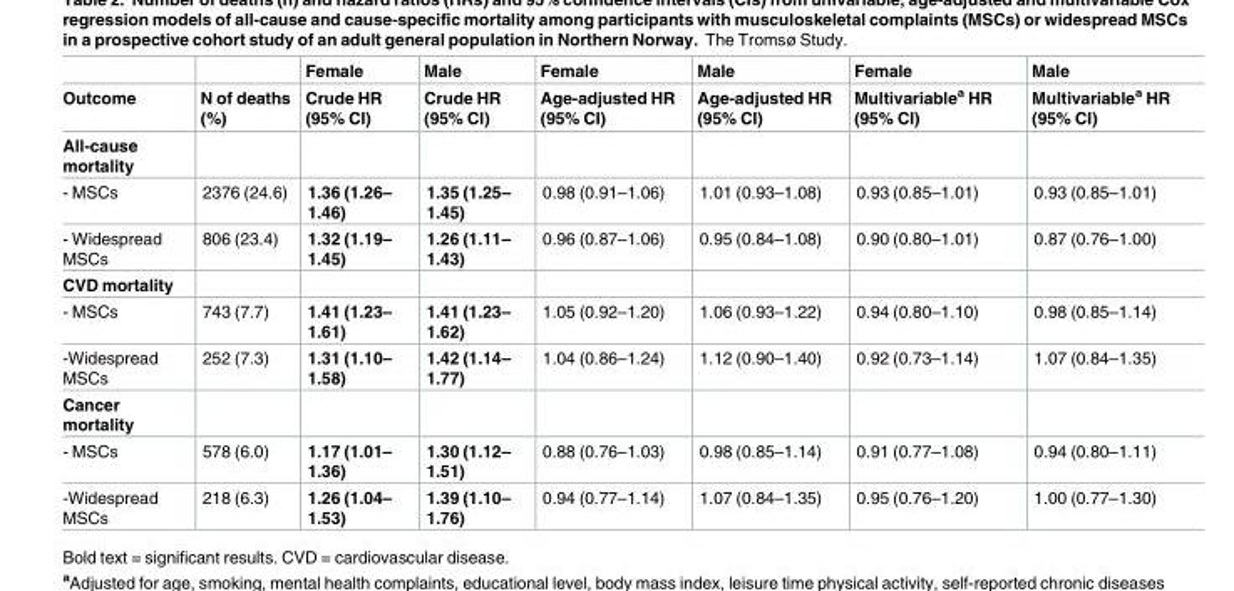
<table><thead><tr><td rowspan="2">Outcome</td><td rowspan="2">N of deaths (%)</td><td rowspan="2">Female Crude HR (95% CI)</td><td rowspan="2">Male Crude HR (95% CI)</td><td rowspan="2">Female Age-adjusted HR (95% CI)</td><td rowspan="2">Male Age-adjusted HR (95% CI)</td><td rowspan="2">Female Multivariable<sup>a</sup> HR (95% CI)</td><td rowspan="2">Male Multivariable<sup>a</sup> HR (95% CI)</td></tr><tr></tr></thead><tbody><tr><td colspan="8">All-cause mortality</td></tr><tr><td>- MSCs</td><td>2376 (24.6)</td><td>1.36 (1.26– 1.46)</td><td>1.35 (1.25– 1.45)</td><td>0.98 (0.91–1.06)</td><td>1.01 (0.93–1.08)</td><td>0.93 (0.85–1.01)</td><td>0.93 (0.85–1.01)</td></tr><tr><td>- Widespread MSCs</td><td>806 (23.4)</td><td>1.32 (1.19– 1.45)</td><td>1.26 (1.11– 1.43)</td><td>0.96 (0.87–1.06)</td><td>0.95 (0.84–1.08)</td><td>0.90 (0.80–1.01)</td><td>0.87 (0.76–1.00)</td></tr><tr><td colspan="8">CVD mortality</td></tr><tr><td>- MSCs</td><td>743 (7.7)</td><td>1.41 (1.23– 1.61)</td><td>1.41 (1.23– 1.62)</td><td>1.05 (0.92–1.20)</td><td>1.06 (0.93–1.22)</td><td>0.94 (0.80–1.10)</td><td>0.98 (0.85–1.14)</td></tr><tr><td>-Widespread MSCs</td><td>252 (7.3)</td><td>1.31 (1.10– 1.58)</td><td>1.42 (1.14– 1.77)</td><td>1.04 (0.86–1.24)</td><td>1.12 (0.90–1.40)</td><td>0.92 (0.73–1.14)</td><td>1.07 (0.84–1.35)</td></tr><tr><td colspan="8">Cancer mortality</td></tr><tr><td>- MSCs</td><td>578 (6.0)</td><td>1.17 (1.01– 1.36)</td><td>1.30 (1.12– 1.51)</td><td>0.88 (0.76–1.03)</td><td>0.98 (0.85–1.14)</td><td>0.91 (0.77–1.08)</td><td>0.94 (0.80–1.11)</td></tr><tr><td>-Widespread MSCs</td><td>218 (6.3)</td><td>1.26 (1.04– 1.53)</td><td>1.39 (1.10– 1.76)</td><td>0.94 (0.77–1.14)</td><td>1.07 (0.84–1.35)</td><td>0.95 (0.76–1.20)</td><td>1.00 (0.77–1.30)</td></tr></tbody></table>